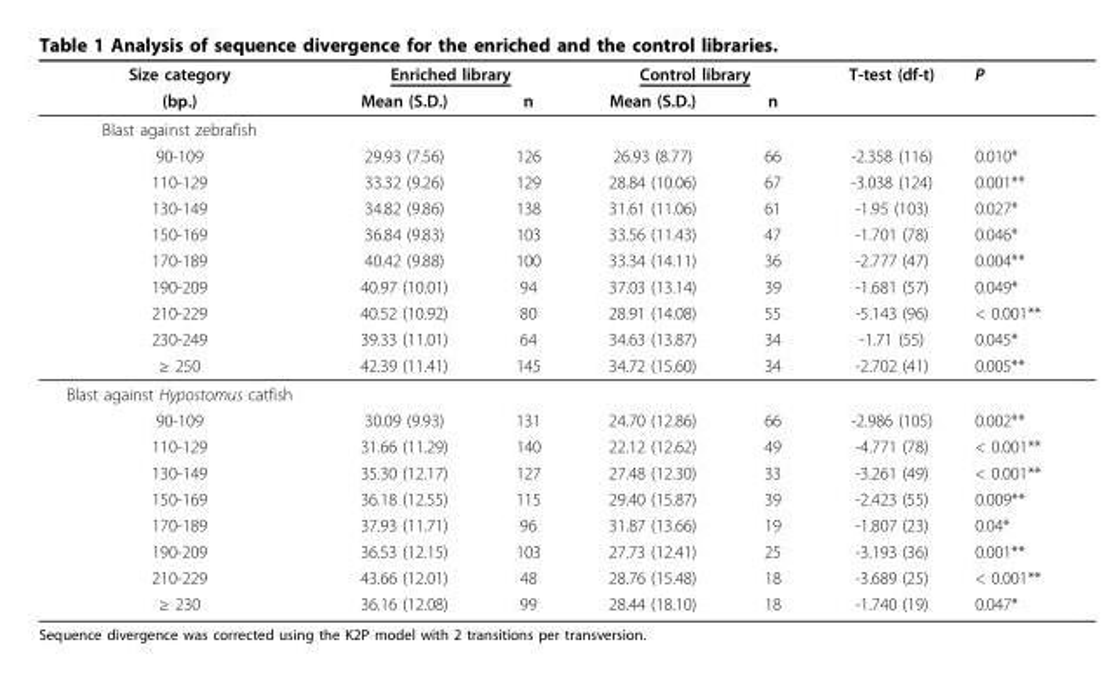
<table><thead><tr><td rowspan="2">Size category (bp.)</td><td colspan="2">Enriched library</td><td colspan="2">Control library</td><td rowspan="2">T-test (df-t)</td><td rowspan="2">P</td></tr><tr><td>Mean (S.D.)</td><td>n</td><td>Mean (S.D.)</td><td>n</td></tr></thead><tbody><tr><td colspan="7">Blast against zebrafish</td></tr><tr><td>90-109</td><td>29.93 (7.56)</td><td>126</td><td>26.93 (8.77)</td><td>66</td><td>-2.358 (116)</td><td>0.010*</td></tr><tr><td>110-129</td><td>33.32 (9.26)</td><td>129</td><td>28.84 (10.06)</td><td>67</td><td>-3.038 (124)</td><td>0.001**</td></tr><tr><td>130-149</td><td>34.82 (9.86)</td><td>138</td><td>31.61 (11.06)</td><td>61</td><td>-1.95 (103)</td><td>0.027*</td></tr><tr><td>150-169</td><td>36.84 (9.83)</td><td>103</td><td>33.56 (11.43)</td><td>47</td><td>-1.701 (78)</td><td>0.046*</td></tr><tr><td>170-189</td><td>40.42 (9.88)</td><td>100</td><td>33.34 (14.11)</td><td>36</td><td>-2.777 (47)</td><td>0.004**</td></tr><tr><td>190-209</td><td>40.97 (10.01)</td><td>94</td><td>37.03 (13.14)</td><td>39</td><td>-1.681 (57)</td><td>0.049*</td></tr><tr><td>210-229</td><td>40.52 (10.92)</td><td>80</td><td>28.91 (14.08)</td><td>55</td><td>-5.143 (96)</td><td>&lt; 0.001**</td></tr><tr><td>230-249</td><td>39.33 (11.01)</td><td>64</td><td>34.63 (13.87)</td><td>34</td><td>-1.71 (55)</td><td>0.045*</td></tr><tr><td>≥ 250</td><td>42.39 (11.41)</td><td>145</td><td>34.72 (15.60)</td><td>34</td><td>-2.702 (41)</td><td>0.005**</td></tr><tr><td colspan="7">Blast against Hypostomus catfish</td></tr><tr><td>90-109</td><td>30.09 (9.93)</td><td>131</td><td>24.70 (12.86)</td><td>66</td><td>-2.986 (105)</td><td>0.002**</td></tr><tr><td>110-129</td><td>31.66 (11.29)</td><td>140</td><td>22.12 (12.62)</td><td>49</td><td>-4.771 (78)</td><td>&lt; 0.001**</td></tr><tr><td>130-149</td><td>35.30 (12.17)</td><td>127</td><td>27.48 (12.30)</td><td>33</td><td>-3.261 (49)</td><td>&lt; 0.001**</td></tr><tr><td>150-169</td><td>36.18 (12.55)</td><td>115</td><td>29.40 (15.87)</td><td>39</td><td>-2.423 (55)</td><td>0.009**</td></tr><tr><td>170-189</td><td>37.93 (11.71)</td><td>96</td><td>31.87 (13.66)</td><td>19</td><td>-1.807 (23)</td><td>0.04*</td></tr><tr><td>190-209</td><td>36.53 (12.15)</td><td>103</td><td>27.73 (12.41)</td><td>25</td><td>-3.193 (36)</td><td>0.001**</td></tr><tr><td>210-229</td><td>43.66 (12.01)</td><td>48</td><td>28.76 (15.48)</td><td>18</td><td>-3.689 (25)</td><td>&lt; 0.001**</td></tr><tr><td>≥ 230</td><td>36.16 (12.08)</td><td>99</td><td>28.44 (18.10)</td><td>18</td><td>-1.740 (19)</td><td>0.047*</td></tr></tbody></table>